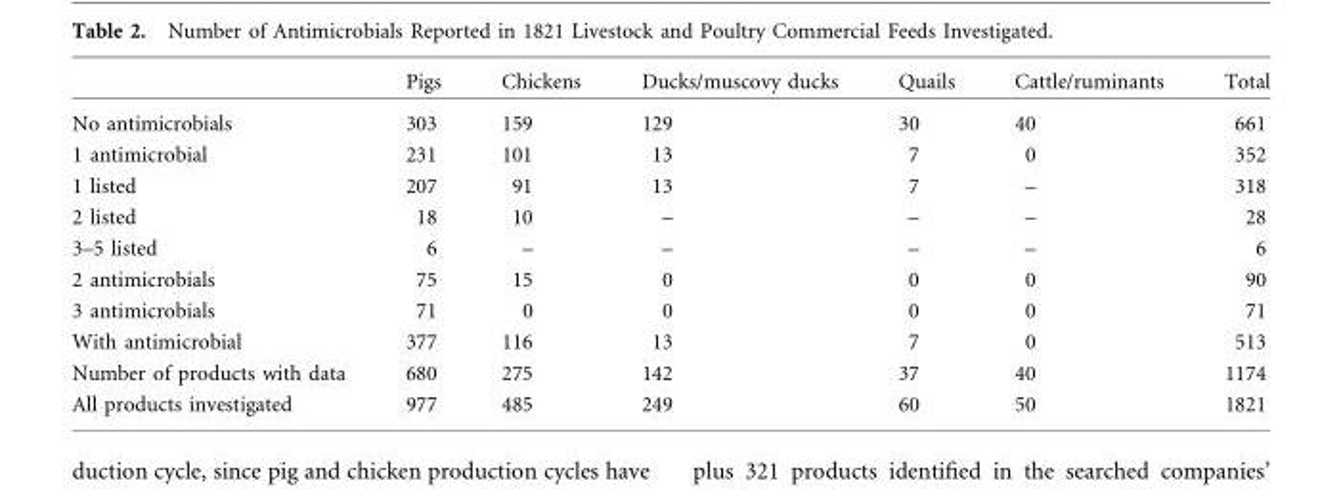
<table><thead><tr><td></td><td>Pigs</td><td>Chickens</td><td>Ducks/muscovy ducks</td><td>Quails</td><td>Cattle/ruminants</td><td>Total</td></tr></thead><tbody><tr><td>No antimicrobials</td><td>303</td><td>159</td><td>129</td><td>30</td><td>40</td><td>661</td></tr><tr><td>1 antimicrobial</td><td>231</td><td>101</td><td>13</td><td>7</td><td>0</td><td>352</td></tr><tr><td>1 listed</td><td>207</td><td>91</td><td>13</td><td>7</td><td>–</td><td>318</td></tr><tr><td>2 listed</td><td>18</td><td>10</td><td>–</td><td>–</td><td>–</td><td>28</td></tr><tr><td>3–5 listed</td><td>6</td><td>–</td><td>–</td><td>–</td><td>–</td><td>6</td></tr><tr><td>2 antimicrobials</td><td>75</td><td>15</td><td>0</td><td>0</td><td>0</td><td>90</td></tr><tr><td>3 antimicrobials</td><td>71</td><td>0</td><td>0</td><td>0</td><td>0</td><td>71</td></tr><tr><td>With antimicrobial</td><td>377</td><td>116</td><td>13</td><td>7</td><td>0</td><td>513</td></tr><tr><td>Number of products with data</td><td>680</td><td>275</td><td>142</td><td>37</td><td>40</td><td>1174</td></tr><tr><td>All products investigated</td><td>977</td><td>485</td><td>249</td><td>60</td><td>50</td><td>1821</td></tr></tbody></table>